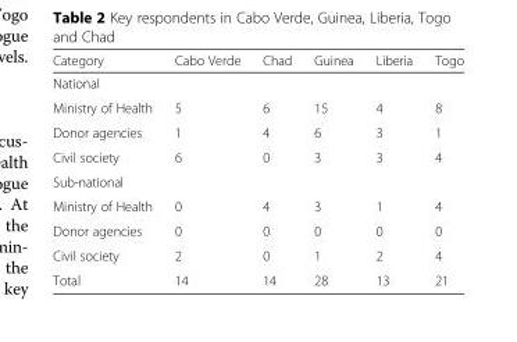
<table><thead><tr><td>Category</td><td>Cabo Verde</td><td>Chad</td><td>Guinea</td><td>Liberia</td><td>Togo</td></tr></thead><tbody><tr><td colspan="6">National</td></tr><tr><td>Ministry of Health</td><td>5</td><td>6</td><td>15</td><td>4</td><td>8</td></tr><tr><td>Donor agencies</td><td>1</td><td>4</td><td>6</td><td>3</td><td>1</td></tr><tr><td>Civil society</td><td>6</td><td>0</td><td>3</td><td>3</td><td>4</td></tr><tr><td colspan="6">Sub-national</td></tr><tr><td>Ministry of Health</td><td>0</td><td>4</td><td>3</td><td>1</td><td>4</td></tr><tr><td>Donor agencies</td><td>0</td><td>0</td><td>0</td><td>0</td><td>0</td></tr><tr><td>Civil society</td><td>2</td><td>0</td><td>1</td><td>2</td><td>4</td></tr><tr><td>Total</td><td>14</td><td>14</td><td>28</td><td>13</td><td>21</td></tr></tbody></table>